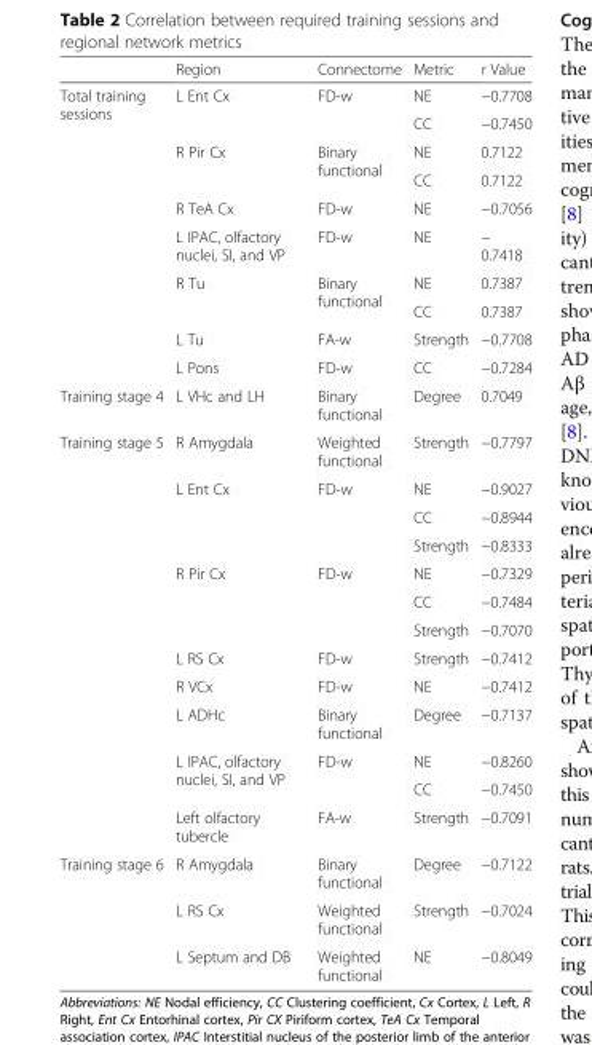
<table><thead><tr><td></td><td>Region</td><td>Connectome</td><td>Metric</td><td>r Value</td></tr></thead><tbody><tr><td rowspan="10">Total training sessions</td><td rowspan="2">L Ent Cx</td><td rowspan="2">FD-w</td><td>NE</td><td>−0.7708</td></tr><tr><td>CC</td><td>−0.7450</td></tr><tr><td rowspan="2">R Pir Cx</td><td rowspan="2">Binary functional</td><td>NE</td><td>0.7122</td></tr><tr><td>CC</td><td>0.7122</td></tr><tr><td>R TeA Cx</td><td>FD-w</td><td>NE</td><td>−0.7056</td></tr><tr><td>L IPAC, olfactory nuclei, SI, and VP</td><td>FD-w</td><td>NE</td><td>− 0.7418</td></tr><tr><td rowspan="2">R Tu</td><td rowspan="2">Binary functional</td><td>NE</td><td>0.7387</td></tr><tr><td>CC</td><td>0.7387</td></tr><tr><td>L Tu</td><td>FA-w</td><td>Strength</td><td>−0.7708</td></tr><tr><td>L Pons</td><td>FD-w</td><td>CC</td><td>−0.7284</td></tr><tr><td>Training stage 4</td><td>L VHc and LH</td><td>Binary functional</td><td>Degree</td><td>0.7049</td></tr><tr><td rowspan="13">Training stage 5</td><td>R Amygdala</td><td>Weighted functional</td><td>Strength</td><td>−0.7797</td></tr><tr><td rowspan="3">L Ent Cx</td><td rowspan="3">FD-w</td><td>NE</td><td>−0.9027</td></tr><tr><td>CC</td><td>−0.8944</td></tr><tr><td>Strength</td><td>−0.8333</td></tr><tr><td rowspan="3">R Pir Cx</td><td rowspan="3">FD-w</td><td>NE</td><td>−0.7329</td></tr><tr><td>CC</td><td>−0.7484</td></tr><tr><td>Strength</td><td>−0.7070</td></tr><tr><td>L RS Cx</td><td>FD-w</td><td>Strength</td><td>−0.7412</td></tr><tr><td>R VCx</td><td>FD-w</td><td>NE</td><td>−0.7412</td></tr><tr><td>L ADHc</td><td>Binary functional</td><td>Degree</td><td>−0.7137</td></tr><tr><td rowspan="2">L IPAC, olfactory nuclei, SI, and VP</td><td rowspan="2">FD-w</td><td>NE</td><td>−0.8260</td></tr><tr><td>CC</td><td>−0.7450</td></tr><tr><td>Left olfactory tubercle</td><td>FA-w</td><td>Strength</td><td>−0.7091</td></tr><tr><td rowspan="3">Training stage 6</td><td>R Amygdala</td><td>Binary functional</td><td>Degree</td><td>−0.7122</td></tr><tr><td>L RS Cx</td><td>Weighted functional</td><td>Strength</td><td>−0.7024</td></tr><tr><td>L Septum and DB</td><td>Weighted functional</td><td>NE</td><td>−0.8049</td></tr></tbody></table>